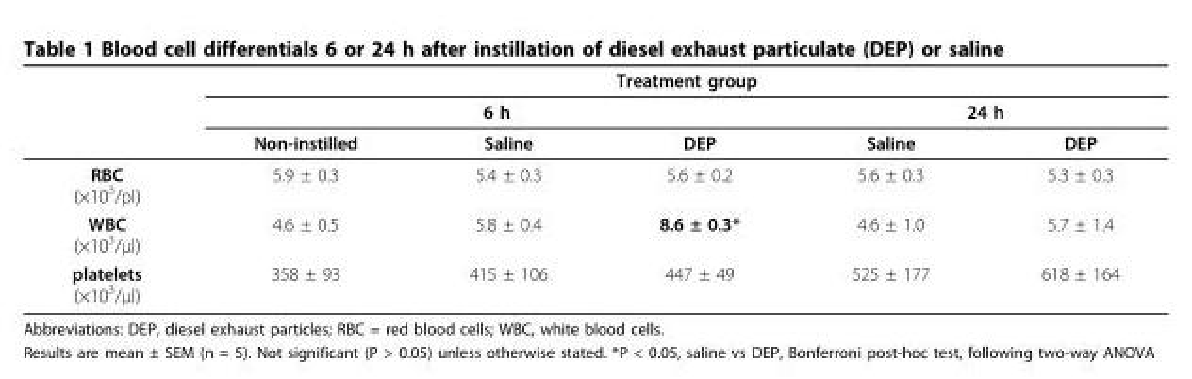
<table><thead><tr><td rowspan="3"></td><td colspan="5">Treatment group</td></tr><tr><td colspan="3">6 h</td><td colspan="2">24 h</td></tr><tr><td>Non-instilled</td><td>Saline</td><td>DEP</td><td>Saline</td><td>DEP</td></tr></thead><tbody><tr><td>RBC (×10<sup>3</sup>/pl)</td><td>5.9 ± 0.3</td><td>5.4 ± 0.3</td><td>5.6 ± 0.2</td><td>5.6 ± 0.3</td><td>5.3 ± 0.3</td></tr><tr><td>WBC (×10<sup>3</sup>/μl)</td><td>4.6 ± 0.5</td><td>5.8 ± 0.4</td><td>8.6 ± 0.3*</td><td>4.6 ± 1.0</td><td>5.7 ± 1.4</td></tr><tr><td>platelets (×10<sup>3</sup>/μl)</td><td>358 ± 93</td><td>415 ± 106</td><td>447 ± 49</td><td>525 ± 177</td><td>618 ± 164</td></tr></tbody></table>